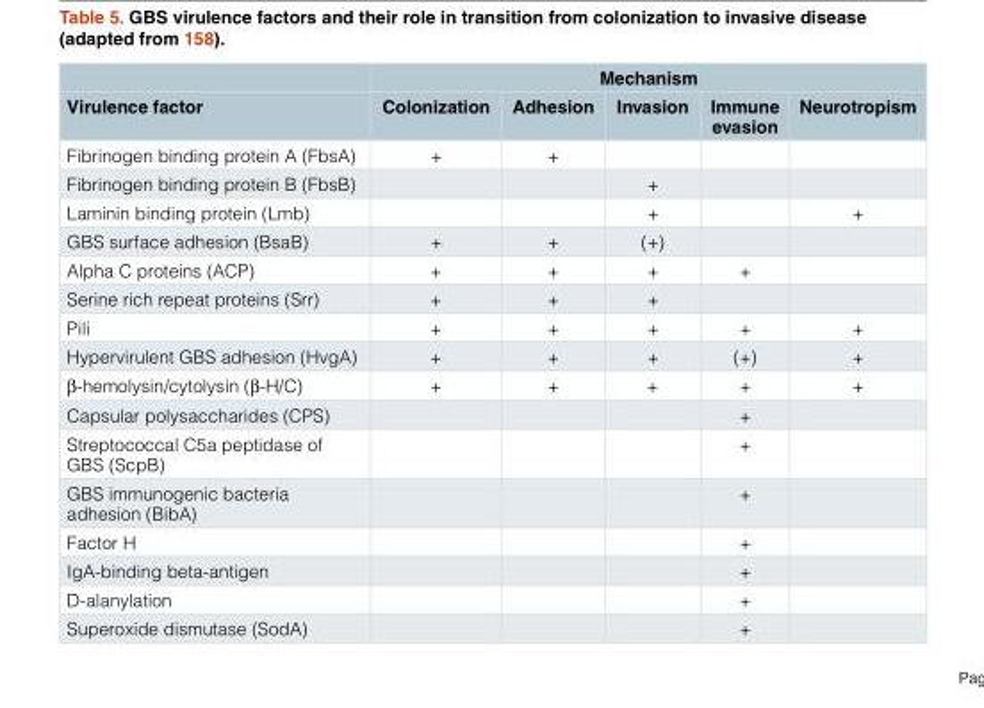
<table><thead><tr><td rowspan="2">Virulence factor</td><td colspan="5">Mechanism</td></tr><tr><td>Colonization</td><td>Adhesion</td><td>Invasion</td><td>Immune evasion</td><td>Neurotropism</td></tr></thead><tbody><tr><td>Fibrinogen binding protein A (FbsA)</td><td>+</td><td>+</td><td></td><td></td><td></td></tr><tr><td>Fibrinogen binding protein B (FbsB)</td><td></td><td></td><td>+</td><td></td><td></td></tr><tr><td>Laminin binding protein (Lmb)</td><td></td><td></td><td>+</td><td></td><td>+</td></tr><tr><td>GBS surface adhesion (BsaB)</td><td>+</td><td>+</td><td>(+)</td><td></td><td></td></tr><tr><td>Alpha C proteins (ACP)</td><td>+</td><td>+</td><td>+</td><td>+</td><td></td></tr><tr><td>Serine rich repeat proteins (Srr)</td><td>+</td><td>+</td><td>+</td><td></td><td></td></tr><tr><td>Pili</td><td>+</td><td>+</td><td>+</td><td>+</td><td>+</td></tr><tr><td>Hypervirulent GBS adhesion (HvgA)</td><td>+</td><td>+</td><td>+</td><td>(+)</td><td>+</td></tr><tr><td>β-hemolysin/cytolysin (β-H/C)</td><td>+</td><td>+</td><td>+</td><td>+</td><td>+</td></tr><tr><td>Capsular polysaccharides (CPS)</td><td></td><td></td><td></td><td>+</td><td></td></tr><tr><td>Streptococcal C5a peptidase of GBS (ScpB)</td><td></td><td></td><td></td><td>+</td><td></td></tr><tr><td>GBS immunogenic bacteria adhesion (BibA)</td><td></td><td></td><td></td><td>+</td><td></td></tr><tr><td>Factor H</td><td></td><td></td><td></td><td>+</td><td></td></tr><tr><td>IgA-binding beta-antigen</td><td></td><td></td><td></td><td>+</td><td></td></tr><tr><td>D-alanylation</td><td></td><td></td><td></td><td>+</td><td></td></tr><tr><td>Superoxide dismutase (SodA)</td><td></td><td></td><td></td><td>+</td><td></td></tr></tbody></table>